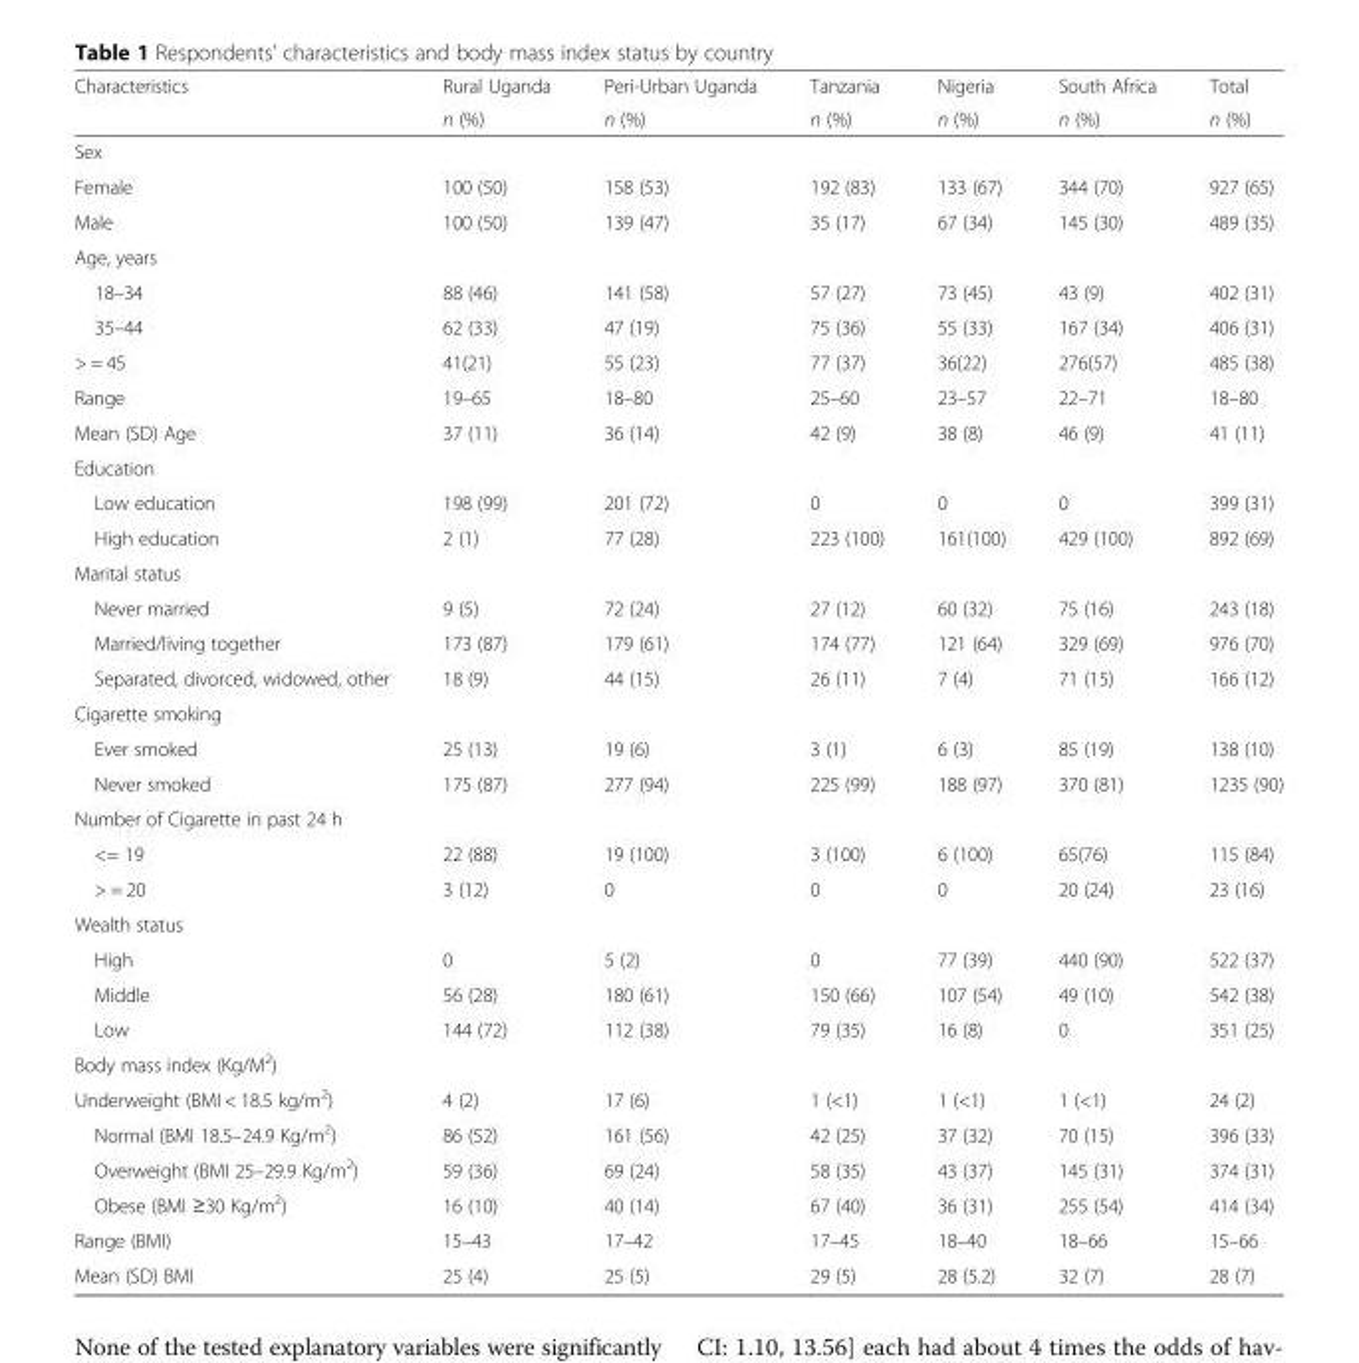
<table><thead><tr><td rowspan="2">Characteristics</td><td rowspan="2">Rural Uganda n (%)</td><td rowspan="2">Peri-Urban Uganda n (%)</td><td rowspan="2">Tanzania n (%)</td><td rowspan="2">Nigeria n (%)</td><td rowspan="2">South Africa n (%)</td><td rowspan="2">Total n (%)</td></tr><tr></tr></thead><tbody><tr><td colspan="7">Sex</td></tr><tr><td>Female</td><td>100 (50)</td><td>158 (53)</td><td>192 (83)</td><td>133 (67)</td><td>344 (70)</td><td>927 (65)</td></tr><tr><td>Male</td><td>100 (50)</td><td>139 (47)</td><td>35 (17)</td><td>67 (34)</td><td>145 (30)</td><td>489 (35)</td></tr><tr><td colspan="7">Age, years</td></tr><tr><td>18–34</td><td>88 (46)</td><td>141 (58)</td><td>57 (27)</td><td>73 (45)</td><td>43 (9)</td><td>402 (31)</td></tr><tr><td>35–44</td><td>62 (33)</td><td>47 (19)</td><td>75 (36)</td><td>55 (33)</td><td>167 (34)</td><td>406 (31)</td></tr><tr><td>&gt; = 45</td><td>41(21)</td><td>55 (23)</td><td>77 (37)</td><td>36(22)</td><td>276(57)</td><td>485 (38)</td></tr><tr><td>Range</td><td>19–65</td><td>18–80</td><td>25–60</td><td>23–57</td><td>22–71</td><td>18–80</td></tr><tr><td>Mean (SD) Age</td><td>37 (11)</td><td>36 (14)</td><td>42 (9)</td><td>38 (8)</td><td>46 (9)</td><td>41 (11)</td></tr><tr><td colspan="7">Education</td></tr><tr><td>Low education</td><td>198 (99)</td><td>201 (72)</td><td>0</td><td>0</td><td>0</td><td>399 (31)</td></tr><tr><td>High education</td><td>2 (1)</td><td>77 (28)</td><td>223 (100)</td><td>161(100)</td><td>429 (100)</td><td>892 (69)</td></tr><tr><td colspan="7">Marital status</td></tr><tr><td>Never married</td><td>9 (5)</td><td>72 (24)</td><td>27 (12)</td><td>60 (32)</td><td>75 (16)</td><td>243 (18)</td></tr><tr><td>Married/living together</td><td>173 (87)</td><td>179 (61)</td><td>174 (77)</td><td>121 (64)</td><td>329 (69)</td><td>976 (70)</td></tr><tr><td>Separated, divorced, widowed, other</td><td>18 (9)</td><td>44 (15)</td><td>26 (11)</td><td>7 (4)</td><td>71 (15)</td><td>166 (12)</td></tr><tr><td colspan="7">Cigarette smoking</td></tr><tr><td>Ever smoked</td><td>25 (13)</td><td>19 (6)</td><td>3 (1)</td><td>6 (3)</td><td>85 (19)</td><td>138 (10)</td></tr><tr><td>Never smoked</td><td>175 (87)</td><td>277 (94)</td><td>225 (99)</td><td>188 (97)</td><td>370 (81)</td><td>1235 (90)</td></tr><tr><td colspan="7">Number of Cigarette in past 24 h</td></tr><tr><td>&lt;= 19</td><td>22 (88)</td><td>19 (100)</td><td>3 (100)</td><td>6 (100)</td><td>65(76)</td><td>115 (84)</td></tr><tr><td>&gt; = 20</td><td>3 (12)</td><td>0</td><td>0</td><td>0</td><td>20 (24)</td><td>23 (16)</td></tr><tr><td colspan="7">Wealth status</td></tr><tr><td>High</td><td>0</td><td>5 (2)</td><td>0</td><td>77 (39)</td><td>440 (90)</td><td>522 (37)</td></tr><tr><td>Middle</td><td>56 (28)</td><td>180 (61)</td><td>150 (66)</td><td>107 (54)</td><td>49 (10)</td><td>542 (38)</td></tr><tr><td>Low</td><td>144 (72)</td><td>112 (38)</td><td>79 (35)</td><td>16 (8)</td><td>0</td><td>351 (25)</td></tr><tr><td colspan="7">Body mass index (Kg/M<sup>2</sup>)</td></tr><tr><td>Underweight (BMI &lt; 18.5 kg/m<sup>2</sup>)</td><td>4 (2)</td><td>17 (6)</td><td>1 (&lt;1)</td><td>1 (&lt;1)</td><td>1 (&lt;1)</td><td>24 (2)</td></tr><tr><td>Normal (BMI 18.5–24.9 Kg/m<sup>2</sup>)</td><td>86 (52)</td><td>161 (56)</td><td>42 (25)</td><td>37 (32)</td><td>70 (15)</td><td>396 (33)</td></tr><tr><td>Overweight (BMI 25–29.9 Kg/m<sup>2</sup>)</td><td>59 (36)</td><td>69 (24)</td><td>58 (35)</td><td>43 (37)</td><td>145 (31)</td><td>374 (31)</td></tr><tr><td>Obese (BMI ≥30 Kg/m<sup>2</sup>)</td><td>16 (10)</td><td>40 (14)</td><td>67 (40)</td><td>36 (31)</td><td>255 (54)</td><td>414 (34)</td></tr><tr><td>Range (BMI)</td><td>15–43</td><td>17–42</td><td>17–45</td><td>18–40</td><td>18–66</td><td>15–66</td></tr><tr><td>Mean (SD) BMI</td><td>25 (4)</td><td>25 (5)</td><td>29 (5)</td><td>28 (5.2)</td><td>32 (7)</td><td>28 (7)</td></tr></tbody></table>